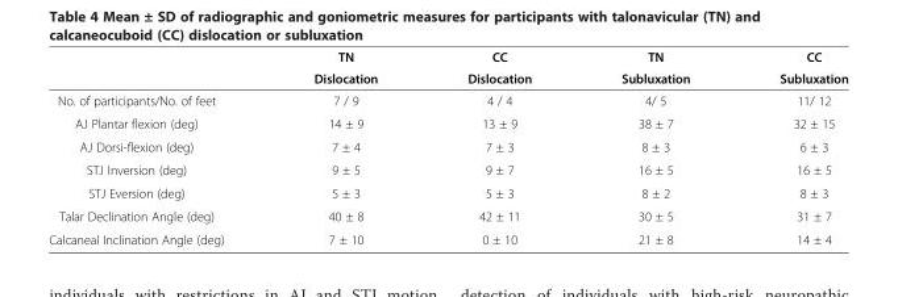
<table><thead><tr><td rowspan="2"></td><td rowspan="2">TN Dislocation</td><td rowspan="2">CC Dislocation</td><td rowspan="2">TN Subluxation</td><td rowspan="2">CC Subluxation</td></tr><tr></tr></thead><tbody><tr><td>No. of participants/No. of feet</td><td>7 / 9</td><td>4 / 4</td><td>4/ 5</td><td>11/ 12</td></tr><tr><td>AJ Plantar flexion (deg)</td><td>14 ± 9</td><td>13 ± 9</td><td>38 ± 7</td><td>32 ± 15</td></tr><tr><td>AJ Dorsi-flexion (deg)</td><td>7 ± 4</td><td>7 ± 3</td><td>8 ± 3</td><td>6 ± 3</td></tr><tr><td>STJ Inversion (deg)</td><td>9 ± 5</td><td>9 ± 7</td><td>16 ± 5</td><td>16 ± 5</td></tr><tr><td>STJ Eversion (deg)</td><td>5 ± 3</td><td>5 ± 3</td><td>8 ± 2</td><td>8 ± 3</td></tr><tr><td>Talar Declination Angle (deg)</td><td>40 ± 8</td><td>42 ± 11</td><td>30 ± 5</td><td>31 ± 7</td></tr><tr><td>Calcaneal Inclination Angle (deg)</td><td>7 ± 10</td><td>0 ± 10</td><td>21 ± 8</td><td>14 ± 4</td></tr></tbody></table>